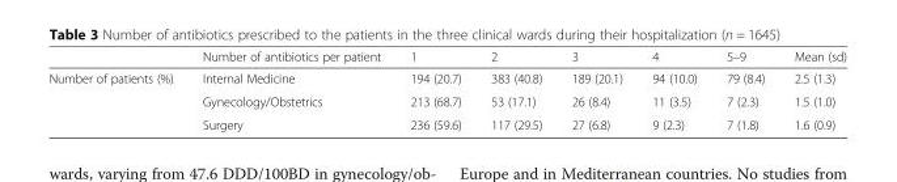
<table><thead><tr><td></td><td>Number of antibiotics per patient</td><td>1</td><td>2</td><td>3</td><td>4</td><td>5–9</td><td>Mean (sd)</td></tr></thead><tbody><tr><td rowspan="3">Number of patients (%)</td><td>Internal Medicine</td><td>194 (20.7)</td><td>383 (40.8)</td><td>189 (20.1)</td><td>94 (10.0)</td><td>79 (8.4)</td><td>2.5 (1.3)</td></tr><tr><td>Gynecology/Obstetrics</td><td>213 (68.7)</td><td>53 (17.1)</td><td>26 (8.4)</td><td>11 (3.5)</td><td>7 (2.3)</td><td>1.5 (1.0)</td></tr><tr><td>Surgery</td><td>236 (59.6)</td><td>117 (29.5)</td><td>27 (6.8)</td><td>9 (2.3)</td><td>7 (1.8)</td><td>1.6 (0.9)</td></tr></tbody></table>